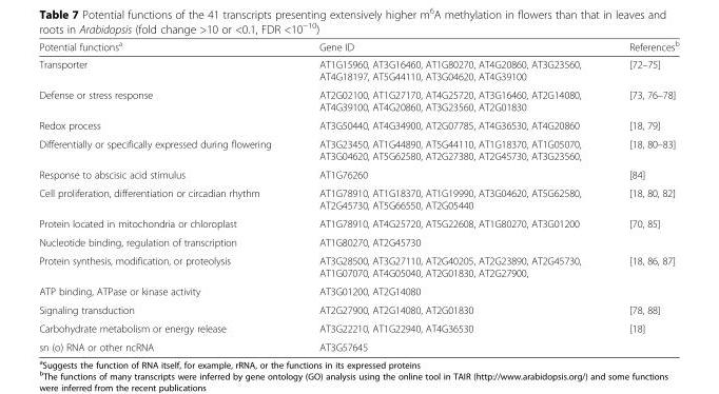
<table><thead><tr><td>Potential functions<sup>a</sup></td><td>Gene ID</td><td>References<sup>b</sup></td></tr></thead><tbody><tr><td>Transporter</td><td>AT1G15960, AT3G16460, AT1G80270, AT4G20860, AT3G23560, AT4G18197, AT5G44110, AT3G04620, AT4G39100</td><td>[72–75]</td></tr><tr><td>Defense or stress response</td><td>AT2G02100, AT1G27170, AT4G25720, AT3G16460, AT2G14080, AT4G39100, AT4G20860, AT3G23560, AT2G01830</td><td>[73, 76–78]</td></tr><tr><td>Redox process</td><td>AT3G50440, AT4G34900, AT2G07785, AT4G36530, AT4G20860</td><td>[18, 79]</td></tr><tr><td>Differentially or specifically expressed during flowering</td><td>AT3G23450, AT1G44890, AT5G44110, AT1G18370, AT1G05070, AT3G04620, AT5G62580, AT2G27380, AT2G45730, AT3G23560,</td><td>[18, 80–83]</td></tr><tr><td>Response to abscisic acid stimulus</td><td>AT1G76260</td><td>[84]</td></tr><tr><td>Cell proliferation, differentiation or circadian rhythm</td><td>AT1G78910, AT1G18370, AT1G19990, AT3G04620, AT5G62580, AT2G45730, AT5G66550, AT2G05440</td><td>[18, 80, 82]</td></tr><tr><td>Protein located in mitochondria or chloroplast</td><td>AT1G78910, AT4G25720, AT5G22608, AT1G80270, AT3G01200</td><td>[70, 85]</td></tr><tr><td>Nucleotide binding, regulation of transcription</td><td>AT1G80270, AT2G45730</td><td></td></tr><tr><td>Protein synthesis, modification, or proteolysis</td><td>AT3G28500, AT3G27110, AT2G40205, AT2G23890, AT2G45730, AT1G07070, AT4G05040, AT2G01830, AT2G27900,</td><td>[18, 86, 87]</td></tr><tr><td>ATP binding, ATPase or kinase activity</td><td>AT3G01200, AT2G14080</td><td></td></tr><tr><td>Signaling transduction</td><td>AT2G27900, AT2G14080, AT2G01830</td><td>[78, 88]</td></tr><tr><td>Carbohydrate metabolism or energy release</td><td>AT3G22210, AT1G22940, AT4G36530</td><td>[18]</td></tr><tr><td>sn (o) RNA or other ncRNA</td><td>AT3G57645</td><td></td></tr></tbody></table>